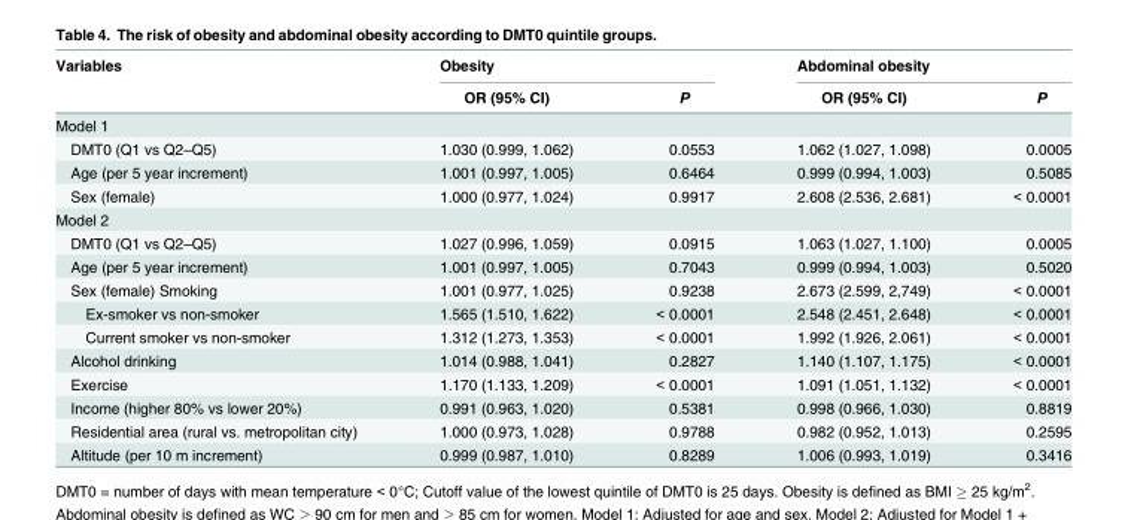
<table><thead><tr><td rowspan="2">Variables</td><td colspan="2">Obesity</td><td colspan="2">Abdominal obesity</td></tr><tr><td>OR (95% CI)</td><td>P</td><td>OR (95% CI)</td><td>P</td></tr></thead><tbody><tr><td colspan="5">Model 1</td></tr><tr><td>DMT0 (Q1 vs Q2–Q5)</td><td>1.030 (0.999, 1.062)</td><td>0.0553</td><td>1.062 (1.027, 1.098)</td><td>0.0005</td></tr><tr><td>Age (per 5 year increment)</td><td>1.001 (0.997, 1.005)</td><td>0.6464</td><td>0.999 (0.994, 1.003)</td><td>0.5085</td></tr><tr><td>Sex (female)</td><td>1.000 (0.977, 1.024)</td><td>0.9917</td><td>2.608 (2.536, 2.681)</td><td>&lt; 0.0001</td></tr><tr><td colspan="5">Model 2</td></tr><tr><td>DMT0 (Q1 vs Q2–Q5)</td><td>1.027 (0.996, 1.059)</td><td>0.0915</td><td>1.063 (1.027, 1.100)</td><td>0.0005</td></tr><tr><td>Age (per 5 year increment)</td><td>1.001 (0.997, 1.005)</td><td>0.7043</td><td>0.999 (0.994, 1.003)</td><td>0.5020</td></tr><tr><td>Sex (female) Smoking</td><td>1.001 (0.977, 1.025)</td><td>0.9238</td><td>2.673 (2.599, 2,749)</td><td>&lt; 0.0001</td></tr><tr><td>Ex-smoker vs non-smoker</td><td>1.565 (1.510, 1.622)</td><td>&lt; 0.0001</td><td>2.548 (2.451, 2.648)</td><td>&lt; 0.0001</td></tr><tr><td>Current smoker vs non-smoker</td><td>1.312 (1.273, 1.353)</td><td>&lt; 0.0001</td><td>1.992 (1.926, 2.061)</td><td>&lt; 0.0001</td></tr><tr><td>Alcohol drinking</td><td>1.014 (0.988, 1.041)</td><td>0.2827</td><td>1.140 (1.107, 1.175)</td><td>&lt; 0.0001</td></tr><tr><td>Exercise</td><td>1.170 (1.133, 1.209)</td><td>&lt; 0.0001</td><td>1.091 (1.051, 1.132)</td><td>&lt; 0.0001</td></tr><tr><td>Income (higher 80% vs lower 20%)</td><td>0.991 (0.963, 1.020)</td><td>0.5381</td><td>0.998 (0.966, 1.030)</td><td>0.8819</td></tr><tr><td>Residential area (rural vs. metropolitan city)</td><td>1.000 (0.973, 1.028)</td><td>0.9788</td><td>0.982 (0.952, 1.013)</td><td>0.2595</td></tr><tr><td>Altitude (per 10 m increment)</td><td>0.999 (0.987, 1.010)</td><td>0.8289</td><td>1.006 (0.993, 1.019)</td><td>0.3416</td></tr></tbody></table>